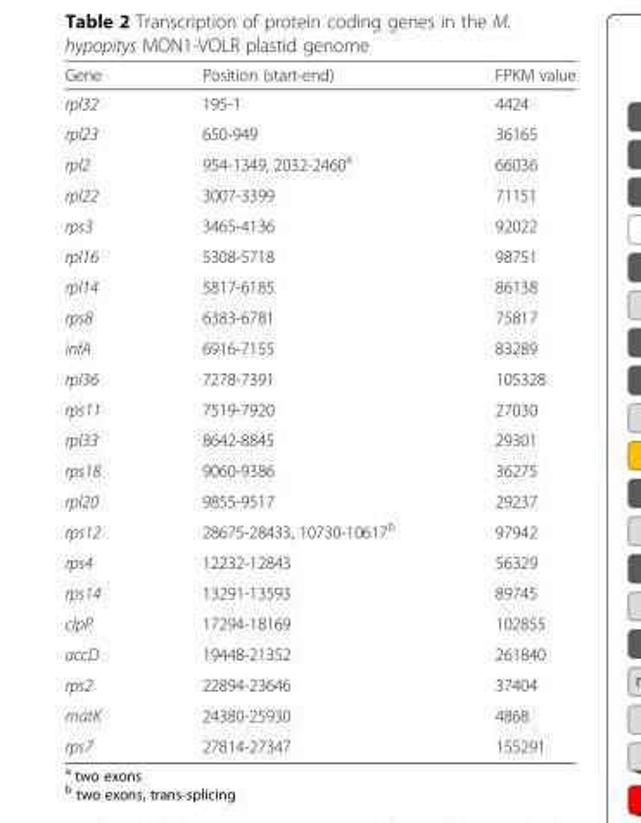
<table><thead><tr><td>Gene</td><td>Position (start-end)</td><td>FPKM value</td></tr></thead><tbody><tr><td>rpl32</td><td>195-1</td><td>4424</td></tr><tr><td>rpl23</td><td>650-949</td><td>36165</td></tr><tr><td>rpl2</td><td>954-1349, 2032-2460<sup>a</sup></td><td>66036</td></tr><tr><td>rpl22</td><td>3007-3399</td><td>71151</td></tr><tr><td>rps3</td><td>3465-4136</td><td>92022</td></tr><tr><td>rpl16</td><td>5308-5718</td><td>98751</td></tr><tr><td>rpl14</td><td>5817-6185</td><td>86138</td></tr><tr><td>rps8</td><td>6383-6781</td><td>75817</td></tr><tr><td>infA</td><td>6916-7155</td><td>83289</td></tr><tr><td>rpl36</td><td>7278-7391</td><td>105328</td></tr><tr><td>rps11</td><td>7519-7920</td><td>27030</td></tr><tr><td>rpl33</td><td>8642-8845</td><td>29301</td></tr><tr><td>rps18</td><td>9060-9386</td><td>36275</td></tr><tr><td>rpl20</td><td>9855-9517</td><td>29237</td></tr><tr><td>rps12</td><td>28675-28433, 10730-10617<sup>b</sup></td><td>97942</td></tr><tr><td>rps4</td><td>12232-12843</td><td>56329</td></tr><tr><td>rps14</td><td>13291-13593</td><td>89745</td></tr><tr><td>clpP</td><td>17294-18169</td><td>102855</td></tr><tr><td>accD</td><td>19448-21352</td><td>261840</td></tr><tr><td>rps2</td><td>22894-23646</td><td>37404</td></tr><tr><td>matK</td><td>24380-25930</td><td>4868</td></tr><tr><td>rps7</td><td>27814-27347</td><td>155291</td></tr></tbody></table>